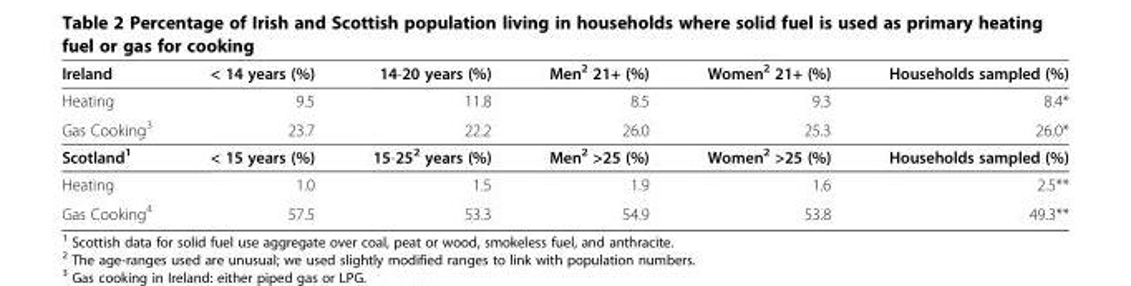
<table><thead><tr><td>Ireland</td><td>&lt; 14 years (%)</td><td>14-20 years (%)</td><td>Men<sup>2</sup> 21+ (%)</td><td>Women<sup>2</sup> 21+ (%)</td><td>Households sampled (%)</td></tr></thead><tbody><tr><td>Heating</td><td>9.5</td><td>11.8</td><td>8.5</td><td>9.3</td><td>8.4*</td></tr><tr><td>Gas Cooking<sup>3</sup></td><td>23.7</td><td>22.2</td><td>26.0</td><td>25.3</td><td>26.0*</td></tr><tr><td>Scotland<sup>1</sup></td><td>&lt; 15 years (%)</td><td>15-25<sup>2</sup> years (%)</td><td>Men<sup>2</sup> &gt;25 (%)</td><td>Women<sup>2</sup> &gt;25 (%)</td><td>Households sampled (%)</td></tr><tr><td>Heating</td><td>1.0</td><td>1.5</td><td>1.9</td><td>1.6</td><td>2.5**</td></tr><tr><td>Gas Cooking<sup>4</sup></td><td>57.5</td><td>53.3</td><td>54.9</td><td>53.8</td><td>49.3**</td></tr></tbody></table>